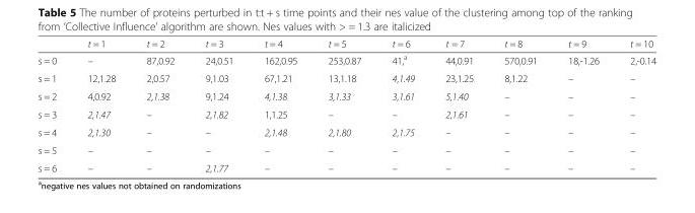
<table><thead><tr><td></td><td>t = 1</td><td>t = 2</td><td>t = 3</td><td>t = 4</td><td>t = 5</td><td>t = 6</td><td>t = 7</td><td>t = 8</td><td>t = 9</td><td>t = 10</td></tr></thead><tbody><tr><td>s = 0</td><td>–</td><td>87,0.92</td><td>24,0.51</td><td>162,0.95</td><td>253,0.87</td><td>41,<sup>a</sup></td><td>44,0.91</td><td>570,0.91</td><td>18,-1.26</td><td>2,-0.14</td></tr><tr><td>s = 1</td><td>12,1.28</td><td>2,0.57</td><td>9,1.03</td><td>67,1.21</td><td>13,1.18</td><td>4,1.49</td><td>23,1.25</td><td>8,1.22</td><td>–</td><td>–</td></tr><tr><td>s = 2</td><td>4,0.92</td><td>2,1.38</td><td>9,1.24</td><td>4,1.38</td><td>3,1.33</td><td>3,1.61</td><td>5,1.40</td><td>–</td><td>–</td><td>–</td></tr><tr><td>s = 3</td><td>2,1.47</td><td>–</td><td>2,1.82</td><td>1,1.25</td><td>–</td><td>–</td><td>2,1.61</td><td>–</td><td>–</td><td>–</td></tr><tr><td>s = 4</td><td>2,1.30</td><td>–</td><td>–</td><td>2,1.48</td><td>2,1.80</td><td>2,1.75</td><td>–</td><td>–</td><td>–</td><td>–</td></tr><tr><td>s = 5</td><td>–</td><td>–</td><td>–</td><td>–</td><td>–</td><td>–</td><td>–</td><td>–</td><td>–</td><td>–</td></tr><tr><td>s = 6</td><td>–</td><td>–</td><td>2,1.77</td><td>–</td><td>–</td><td>–</td><td>–</td><td>–</td><td>–</td><td>–</td></tr></tbody></table>